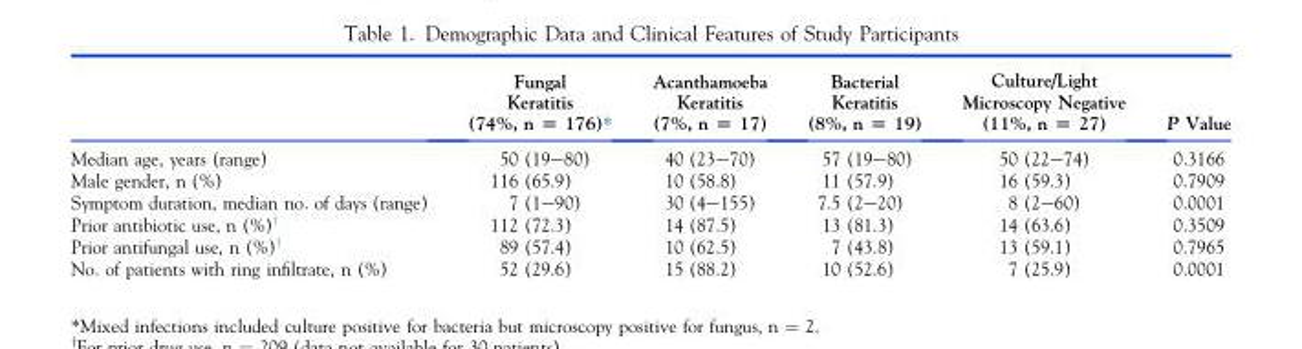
<table><thead><tr><td></td><td>Fungal Keratitis (74%, n = 176)*</td><td>Acanthamoeba Keratitis (7%, n = 17)</td><td>Bacterial Keratitis (8%, n = 19)</td><td>Culture/Light Microscopy Negative (11%, n = 27)</td><td>P Value</td></tr></thead><tbody><tr><td>Median age, years (range)</td><td>50 (19–80)</td><td>40 (23–70)</td><td>57 (19–80)</td><td>50 (22–74)</td><td>0.3166</td></tr><tr><td>Male gender, n (%)</td><td>116 (65.9)</td><td>10 (58.8)</td><td>11 (57.9)</td><td>16 (59.3)</td><td>0.7909</td></tr><tr><td>Symptom duration, median no. of days (range)</td><td>7 (1–90)</td><td>30 (4–155)</td><td>7.5 (2–20)</td><td>8 (2–60)</td><td>0.0001</td></tr><tr><td>Prior antibiotic use, n (%)†</td><td>112 (72.3)</td><td>14 (87.5)</td><td>13 (81.3)</td><td>14 (63.6)</td><td>0.3509</td></tr><tr><td>Prior antifungal use, n (%)†</td><td>89 (57.4)</td><td>10 (62.5)</td><td>7 (43.8)</td><td>13 (59.1)</td><td>0.7965</td></tr><tr><td>No. of patients with ring infiltrate, n (%)</td><td>52 (29.6)</td><td>15 (88.2)</td><td>10 (52.6)</td><td>7 (25.9)</td><td>0.0001</td></tr></tbody></table>